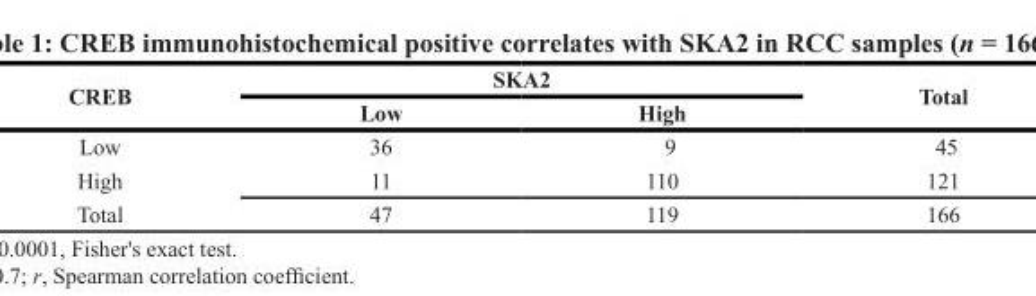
<table><thead><tr><td rowspan="2">CREB</td><td colspan="2">SKA2</td><td rowspan="2">Total</td></tr><tr><td>Low</td><td>High</td></tr></thead><tbody><tr><td>Low</td><td>36</td><td>9</td><td>45</td></tr><tr><td>High</td><td>11</td><td>110</td><td>121</td></tr><tr><td>Total</td><td>47</td><td>119</td><td>166</td></tr></tbody></table>